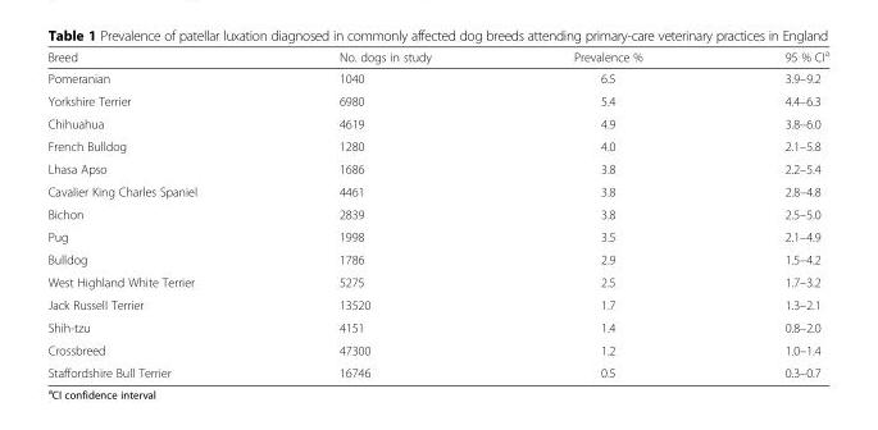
<table><thead><tr><td>Breed</td><td>No. dogs in study</td><td>Prevalence %</td><td>95 % CI<sup>a</sup></td></tr></thead><tbody><tr><td>Pomeranian</td><td>1040</td><td>6.5</td><td>3.9–9.2</td></tr><tr><td>Yorkshire Terrier</td><td>6980</td><td>5.4</td><td>4.4–6.3</td></tr><tr><td>Chihuahua</td><td>4619</td><td>4.9</td><td>3.8–6.0</td></tr><tr><td>French Bulldog</td><td>1280</td><td>4.0</td><td>2.1–5.8</td></tr><tr><td>Lhasa Apso</td><td>1686</td><td>3.8</td><td>2.2–5.4</td></tr><tr><td>Cavalier King Charles Spaniel</td><td>4461</td><td>3.8</td><td>2.8–4.8</td></tr><tr><td>Bichon</td><td>2839</td><td>3.8</td><td>2.5–5.0</td></tr><tr><td>Pug</td><td>1998</td><td>3.5</td><td>2.1–4.9</td></tr><tr><td>Bulldog</td><td>1786</td><td>2.9</td><td>1.5–4.2</td></tr><tr><td>West Highland White Terrier</td><td>5275</td><td>2.5</td><td>1.7–3.2</td></tr><tr><td>Jack Russell Terrier</td><td>13520</td><td>1.7</td><td>1.3–2.1</td></tr><tr><td>Shih-tzu</td><td>4151</td><td>1.4</td><td>0.8–2.0</td></tr><tr><td>Crossbreed</td><td>47300</td><td>1.2</td><td>1.0–1.4</td></tr><tr><td>Staffordshire Bull Terrier</td><td>16746</td><td>0.5</td><td>0.3–0.7</td></tr></tbody></table>